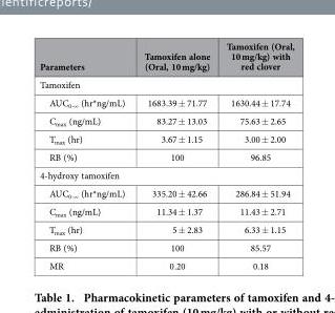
<table><thead><tr><td>Parameters</td><td>Tamoxifen alone (Oral, 10 mg/kg)</td><td>Tamoxifen (Oral, 10 mg/kg) with red clover</td></tr></thead><tbody><tr><td colspan="3">Tamoxifen</td></tr><tr><td>AUC<sub>0-∞</sub> (hr*ng/mL)</td><td>1683.39 ± 71.77</td><td>1630.44 ± 17.74</td></tr><tr><td>C<sub>max</sub> (ng/mL)</td><td>83.27 ± 13.03</td><td>75.63 ± 2.65</td></tr><tr><td>T<sub>max</sub> (hr)</td><td>3.67 ± 1.15</td><td>3.00 ± 2.00</td></tr><tr><td>RB (%)</td><td>100</td><td>96.85</td></tr><tr><td colspan="3">4-hydroxy tamoxifen</td></tr><tr><td>AUC<sub>0-∞</sub> (hr*ng/mL)</td><td>335.20 ± 42.66</td><td>286.84 ± 51.94</td></tr><tr><td>C<sub>max</sub> (ng/mL)</td><td>11.34 ± 1.37</td><td>11.43 ± 2.71</td></tr><tr><td>T<sub>max</sub> (hr)</td><td>5 ± 2.83</td><td>6.33 ± 1.15</td></tr><tr><td>RB (%)</td><td>100</td><td>85.57</td></tr><tr><td>MR</td><td>0.20</td><td>0.18</td></tr></tbody></table>